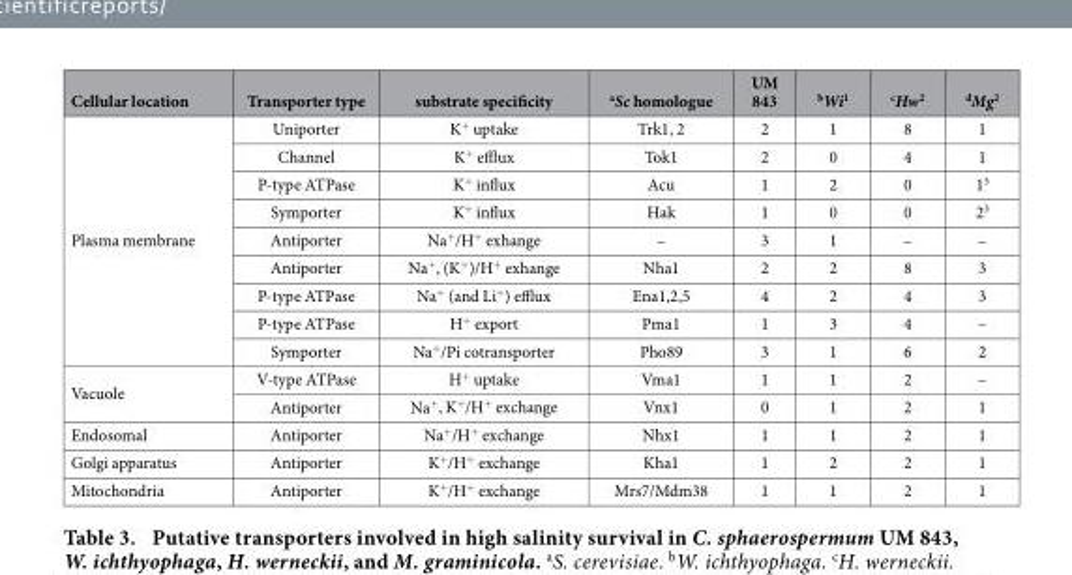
<table><thead><tr><td>Cellular location</td><td>Transporter type</td><td>substrate specificity</td><td><sup>a</sup>Sc homologue</td><td>UM 843</td><td><sup>b</sup>Wi<sup>1</sup></td><td><sup>c</sup>Hw<sup>2</sup></td><td><sup>d</sup>Mg<sup>2</sup></td></tr></thead><tbody><tr><td rowspan="9">Plasma membrane</td><td>Uniporter</td><td>K<sup>+</sup> uptake</td><td>Trk1, 2</td><td>2</td><td>1</td><td>8</td><td>1</td></tr><tr><td>Channel</td><td>K<sup>+</sup> efflux</td><td>Tok1</td><td>2</td><td>0</td><td>4</td><td>1</td></tr><tr><td>P-type ATPase</td><td>K<sup>+</sup> influx</td><td>Acu</td><td>1</td><td>2</td><td>0</td><td>1<sup>3</sup></td></tr><tr><td>Symporter</td><td>K<sup>+</sup> influx</td><td>Hak</td><td>1</td><td>0</td><td>0</td><td>2<sup>3</sup></td></tr><tr><td>Antiporter</td><td>Na<sup>+</sup>/H<sup>+</sup> exhange</td><td>–</td><td>3</td><td>1</td><td>–</td><td>–</td></tr><tr><td>Antiporter</td><td>Na<sup>+</sup>, (K<sup>+</sup>)/H<sup>+</sup> exhange</td><td>Nha1</td><td>2</td><td>2</td><td>8</td><td>3</td></tr><tr><td>P-type ATPase</td><td>Na<sup>+</sup> (and Li<sup>+</sup>) efflux</td><td>Ena1,2,5</td><td>4</td><td>2</td><td>4</td><td>3</td></tr><tr><td>P-type ATPase</td><td>H<sup>+</sup> export</td><td>Pma1</td><td>1</td><td>3</td><td>4</td><td>–</td></tr><tr><td>Symporter</td><td>Na<sup>+</sup>/Pi cotransporter</td><td>Pho89</td><td>3</td><td>1</td><td>6</td><td>2</td></tr><tr><td rowspan="2">Vacuole</td><td>V-type ATPase</td><td>H<sup>+</sup> uptake</td><td>Vma1</td><td>1</td><td>1</td><td>2</td><td>–</td></tr><tr><td>Antiporter</td><td>Na<sup>+</sup>, K<sup>+</sup>/H<sup>+</sup> exchange</td><td>Vnx1</td><td>0</td><td>1</td><td>2</td><td>1</td></tr><tr><td>Endosomal</td><td>Antiporter</td><td>Na<sup>+</sup>/H<sup>+</sup> exchange</td><td>Nhx1</td><td>1</td><td>1</td><td>2</td><td>1</td></tr><tr><td>Golgi apparatus</td><td>Antiporter</td><td>K<sup>+</sup>/H<sup>+</sup> exchange</td><td>Kha1</td><td>1</td><td>2</td><td>2</td><td>1</td></tr><tr><td>Mitochondria</td><td>Antiporter</td><td>K<sup>+</sup>/H<sup>+</sup> exchange</td><td>Mrs7/Mdm38</td><td>1</td><td>1</td><td>2</td><td>1</td></tr></tbody></table>